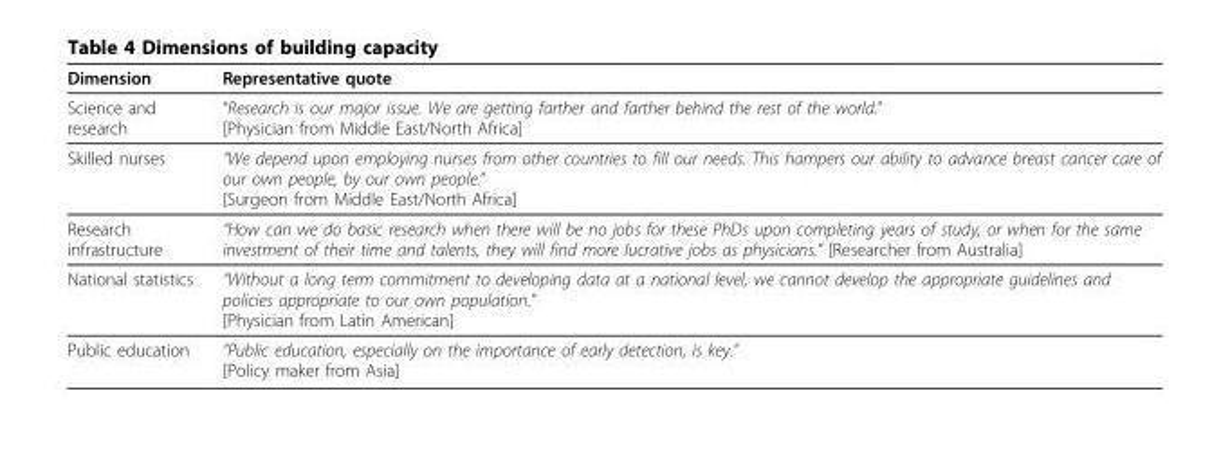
<table><thead><tr><td>Dimension</td><td>Representative quote</td></tr></thead><tbody><tr><td>Science and research</td><td>“Research is our major issue. We are getting farther and farther behind the rest of the world.” [Physician from Middle East/North Africa]</td></tr><tr><td>Skilled nurses</td><td>“We depend upon employing nurses from other countries to fill our needs. This hampers our ability to advance breast cancer care of our own people, by our own people.” [Surgeon from Middle East/North Africa]</td></tr><tr><td>Research infrastructure</td><td>“How can we do basic research when there will be no jobs for these PhDs upon completing years of study, or when for the same investment of their time and talents, they will find more lucrative jobs as physicians.” [Researcher from Australia]</td></tr><tr><td>National statistics</td><td>“Without a long term commitment to developing data at a national level, we cannot develop the appropriate guidelines and policies appropriate to our own population.” [Physician from Latin American]</td></tr><tr><td>Public education</td><td>“Public education, especially on the importance of early detection, is key.” [Policy maker from Asia]</td></tr></tbody></table>